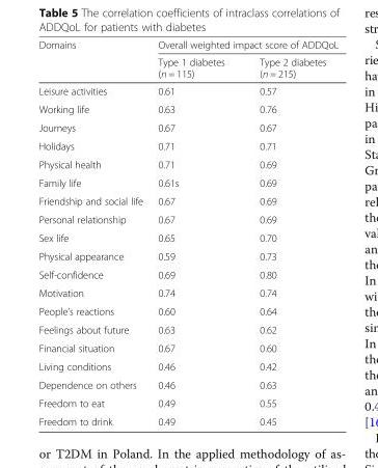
<table><thead><tr><td rowspan="2">Domains</td><td colspan="2">Overall weighted impact score of ADDQoL</td></tr><tr><td>Type 1 diabetes (n = 115)</td><td>Type 2 diabetes (n = 215)</td></tr></thead><tbody><tr><td>Leisure activities</td><td>0.61</td><td>0.57</td></tr><tr><td>Working life</td><td>0.63</td><td>0.76</td></tr><tr><td>Journeys</td><td>0.67</td><td>0.67</td></tr><tr><td>Holidays</td><td>0.71</td><td>0.71</td></tr><tr><td>Physical health</td><td>0.71</td><td>0.69</td></tr><tr><td>Family life</td><td>0.61s</td><td>0.69</td></tr><tr><td>Friendship and social life</td><td>0.67</td><td>0.69</td></tr><tr><td>Personal relationship</td><td>0.67</td><td>0.69</td></tr><tr><td>Sex life</td><td>0.65</td><td>0.70</td></tr><tr><td>Physical appearance</td><td>0.59</td><td>0.73</td></tr><tr><td>Self-confidence</td><td>0.69</td><td>0.80</td></tr><tr><td>Motivation</td><td>0.74</td><td>0.74</td></tr><tr><td>People’s reactions</td><td>0.60</td><td>0.64</td></tr><tr><td>Feelings about future</td><td>0.63</td><td>0.62</td></tr><tr><td>Financial situation</td><td>0.67</td><td>0.60</td></tr><tr><td>Living conditions</td><td>0.46</td><td>0.42</td></tr><tr><td>Dependence on others</td><td>0.46</td><td>0.63</td></tr><tr><td>Freedom to eat</td><td>0.49</td><td>0.55</td></tr><tr><td>Freedom to drink</td><td>0.49</td><td>0.45</td></tr></tbody></table>